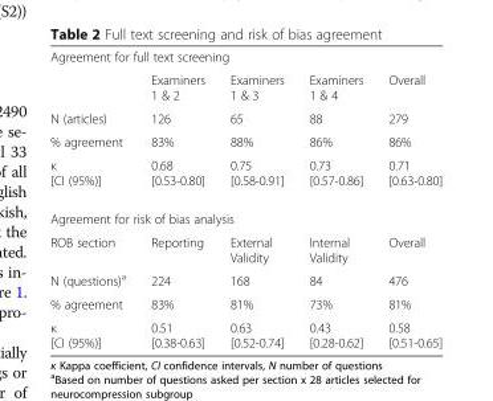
<table><tbody><tr><td colspan="5">Agreement for full text screening</td></tr><tr><td></td><td>Examiners 1 &amp; 2</td><td>Examiners 1 &amp; 3</td><td>Examiners 1 &amp; 4</td><td>Overall</td></tr><tr><td>N (articles)</td><td>126</td><td>65</td><td>88</td><td>279</td></tr><tr><td>% agreement</td><td>83%</td><td>88%</td><td>86%</td><td>86%</td></tr><tr><td>κ [CI (95%)]</td><td>0.68 [0.53-0.80]</td><td>0.75 [0.58-0.91]</td><td>0.73 [0.57-0.86]</td><td>0.71 [0.63-0.80]</td></tr><tr><td colspan="5">Agreement for risk of bias analysis</td></tr><tr><td>ROB section</td><td>Reporting</td><td>External Validity</td><td>Internal Validity</td><td>Overall</td></tr><tr><td>N (questions)<sup>a</sup></td><td>224</td><td>168</td><td>84</td><td>476</td></tr><tr><td>% agreement</td><td>83%</td><td>81%</td><td>73%</td><td>81%</td></tr><tr><td>κ [CI (95%)]</td><td>0.51 [0.38-0.63]</td><td>0.63 [0.52-0.74]</td><td>0.43 [0.28-0.62]</td><td>0.58 [0.51-0.65]</td></tr></tbody></table>